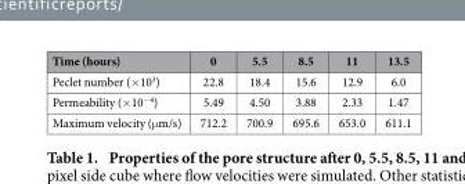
<table><thead><tr><td>Time (hours)</td><td>0</td><td>5.5</td><td>8.5</td><td>11</td><td>13.5</td></tr></thead><tbody><tr><td>Peclet number (×10<sup>3</sup>)</td><td>22.8</td><td>18.4</td><td>15.6</td><td>12.9</td><td>6.0</td></tr><tr><td>Permeability (×10<sup>−4</sup>)</td><td>5.49</td><td>4.50</td><td>3.88</td><td>2.33</td><td>1.47</td></tr><tr><td>Maximum velocity (μ m/s)</td><td>712.2</td><td>700.9</td><td>695.6</td><td>653.0</td><td>611.1</td></tr></tbody></table>